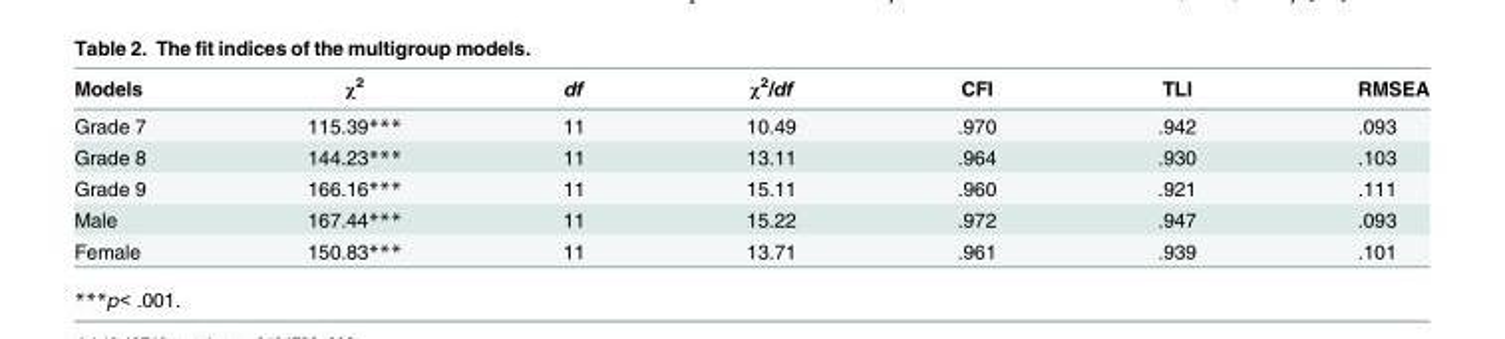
<table><thead><tr><td>Models</td><td>χ<sup>2</sup></td><td>df</td><td>χ<sup>2</sup>/df</td><td>CFI</td><td>TLI</td><td>RMSEA</td></tr></thead><tbody><tr><td>Grade 7</td><td>115.39***</td><td>11</td><td>10.49</td><td>.970</td><td>.942</td><td>.093</td></tr><tr><td>Grade 8</td><td>144.23***</td><td>11</td><td>13.11</td><td>.964</td><td>.930</td><td>.103</td></tr><tr><td>Grade 9</td><td>166.16***</td><td>11</td><td>15.11</td><td>.960</td><td>.921</td><td>.111</td></tr><tr><td>Male</td><td>167.44***</td><td>11</td><td>15.22</td><td>.972</td><td>.947</td><td>.093</td></tr><tr><td>Female</td><td>150.83***</td><td>11</td><td>13.71</td><td>.961</td><td>.939</td><td>.101</td></tr></tbody></table>